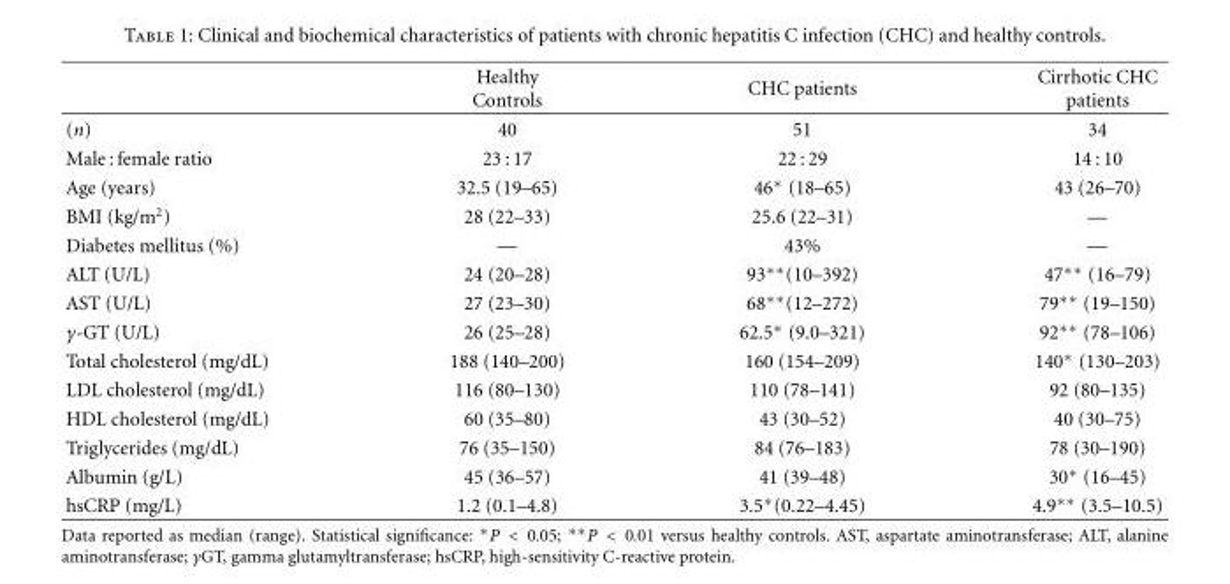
<table><thead><tr><td></td><td>Healthy Controls</td><td>CHC patients</td><td>Cirrhotic CHC patients</td></tr></thead><tbody><tr><td>(n)</td><td>40</td><td>51</td><td>34</td></tr><tr><td>Male : female ratio</td><td>23 : 17</td><td>22 : 29</td><td>14 : 10</td></tr><tr><td>Age (years)</td><td>32.5 (19–65)</td><td>46∗ (18–65)</td><td>43 (26–70)</td></tr><tr><td>BMI (kg/m<sup>2</sup>)</td><td>28 (22–33)</td><td>25.6 (22–31)</td><td>—</td></tr><tr><td>Diabetes mellitus (%)</td><td>—</td><td>43%</td><td>—</td></tr><tr><td>ALT (U/L)</td><td>24 (20–28)</td><td>93∗∗(10–392)</td><td>47∗∗ (16–79)</td></tr><tr><td>AST (U/L)</td><td>27 (23–30)</td><td>68∗∗(12–272)</td><td>79∗∗ (19–150)</td></tr><tr><td>γ-GT (U/L)</td><td>26 (25–28)</td><td>62.5∗ (9.0–321)</td><td>92∗∗ (78–106)</td></tr><tr><td>Total cholesterol (mg/dL)</td><td>188 (140–200)</td><td>160 (154–209)</td><td>140∗ (130–203)</td></tr><tr><td>LDL cholesterol (mg/dL)</td><td>116 (80–130)</td><td>110 (78–141)</td><td>92 (80–135)</td></tr><tr><td>HDL cholesterol (mg/dL)</td><td>60 (35–80)</td><td>43 (30–52)</td><td>40 (30–75)</td></tr><tr><td>Triglycerides (mg/dL)</td><td>76 (35–150)</td><td>84 (76–183)</td><td>78 (30–190)</td></tr><tr><td>Albumin (g/L)</td><td>45 (36–57)</td><td>41 (39–48)</td><td>30∗ (16–45)</td></tr><tr><td>hsCRP (mg/L)</td><td>1.2 (0.1–4.8)</td><td>3.5∗(0.22–4.45)</td><td>4.9∗∗ (3.5–10.5)</td></tr></tbody></table>